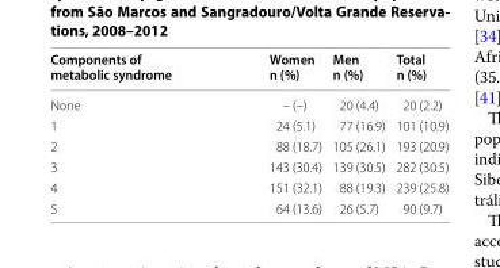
<table><thead><tr><td>Components of metabolic syndrome</td><td>Women n (%)</td><td>Men n (%)</td><td>Total n (%)</td></tr></thead><tbody><tr><td>None</td><td>– (–)</td><td>20 (4.4)</td><td>20 (2.2)</td></tr><tr><td>1</td><td>24 (5.1)</td><td>77 (16.9)</td><td>101 (10.9)</td></tr><tr><td>2</td><td>88 (18.7)</td><td>105 (26.1)</td><td>193 (20.9)</td></tr><tr><td>3</td><td>143 (30.4)</td><td>139 (30.5)</td><td>282 (30.5)</td></tr><tr><td>4</td><td>151 (32.1)</td><td>88 (19.3)</td><td>239 (25.8)</td></tr><tr><td>5</td><td>64 (13.6)</td><td>26 (5.7)</td><td>90 (9.7)</td></tr></tbody></table>